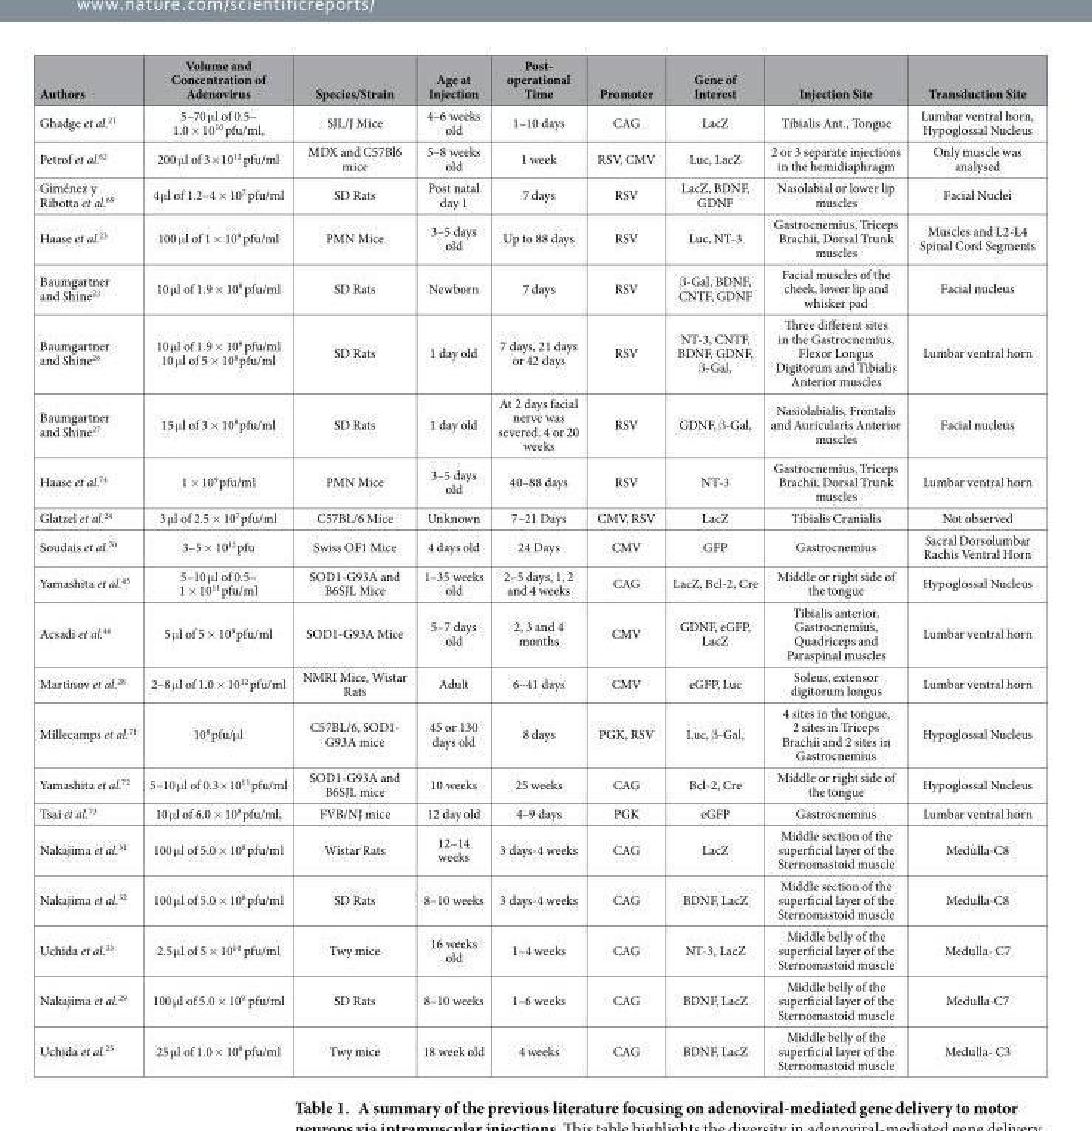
<table><thead><tr><td>Authors</td><td>Volume and Concentration of Adenovirus</td><td>Species/Strain</td><td>Age at Injection</td><td>Post- operational Time</td><td>Promoter</td><td>Gene of Interest</td><td>Injection Site</td><td>Transduction Site</td></tr></thead><tbody><tr><td>Ghadge et al.<sup>21</sup></td><td>5–70 μ l of 0.5– 1.0 × 10<sup>10</sup> pfu/ml,</td><td>SJL/J Mice</td><td>4–6 weeks old</td><td>1–10 days</td><td>CAG</td><td>LacZ</td><td>Tibialis Ant., Tongue</td><td>Lumbar ventral horn, Hypoglossal Nucleus</td></tr><tr><td>Petrof et al.<sup>62</sup></td><td>200 μ l of 3× 10<sup>12</sup> pfu/ml</td><td>MDX and C57Bl6 mice</td><td>5–8 weeks old</td><td>1 week</td><td>RSV, CMV</td><td>Luc, LacZ</td><td>2 or 3 separate injections in the hemidiaphragm</td><td>Only muscle was analysed</td></tr><tr><td>Giménez y Ribotta et al.<sup>69</sup></td><td>4 μ l of 1.2–4 × 10<sup>7</sup> pfu/ml</td><td>SD Rats</td><td>Post natal day 1</td><td>7 days</td><td>RSV</td><td>LacZ, BDNF, GDNF</td><td>Nasolabial or lower lip muscles</td><td>Facial Nuclei</td></tr><tr><td>Haase et al.<sup>23</sup></td><td>100 μ l of 1 × 10<sup>9</sup> pfu/ml</td><td>PMN Mice</td><td>3–5 days old</td><td>Up to 88 days</td><td>RSV</td><td>Luc, NT-3</td><td>Gastrocnemius, Triceps Brachii, Dorsal Trunk muscles</td><td>Muscles and L2-L4 Spinal Cord Segments</td></tr><tr><td>Baumgartner and Shine<sup>22</sup></td><td>10 μ l of 1.9 × 10<sup>8</sup> pfu/ml</td><td>SD Rats</td><td>Newborn</td><td>7 days</td><td>RSV</td><td>β -Gal, BDNF, CNTF, GDNF</td><td>Facial muscles of the cheek, lower lip and whisker pad</td><td>Facial nucleus</td></tr><tr><td>Baumgartner and Shine<sup>26</sup></td><td>10 μ l of 1.9 × 10<sup>8</sup> pfu/ml 10 μ l of 5 × 10<sup>8</sup> pfu/ml</td><td>SD Rats</td><td>1 day old</td><td>7 days, 21 days or 42 days</td><td>RSV</td><td>NT-3, CNTF, BDNF, GDNF, β -Gal,</td><td>Three different sites in the Gastrocnemius, Flexor Longus Digitorum and Tibialis Anterior muscles</td><td>Lumbar ventral horn</td></tr><tr><td>Baumgartner and Shine<sup>27</sup></td><td>15 μ l of 3 × 10<sup>8</sup> pfu/ml</td><td>SD Rats</td><td>1 day old</td><td>At 2 days facial nerve was severed. 4 or 20 weeks</td><td>RSV</td><td>GDNF, β -Gal,</td><td>Nasiolabialis, Frontalis and Auricularis Anterior muscles</td><td>Facial nucleus</td></tr><tr><td>Haase et al.<sup>74</sup></td><td>1 × 10<sup>9</sup> pfu/ml</td><td>PMN Mice</td><td>3–5 days old</td><td>40–88 days</td><td>RSV</td><td>NT-3</td><td>Gastrocnemius, Triceps Brachii, Dorsal Trunk muscles</td><td>Lumbar ventral horn</td></tr><tr><td>Glatzel et al.<sup>24</sup></td><td>3 μ l of 2.5 × 10<sup>7</sup> pfu/ml</td><td>C57BL/6 Mice</td><td>Unknown</td><td>7–21 Days</td><td>CMV, RSV</td><td>LacZ</td><td>Tibialis Cranialis</td><td>Not observed</td></tr><tr><td>Soudais et al.<sup>70</sup></td><td>3–5 × 10<sup>12</sup> pfu</td><td>Swiss OF1 Mice</td><td>4 days old</td><td>24 Days</td><td>CMV</td><td>GFP</td><td>Gastrocnemius</td><td>Sacral Dorsolumbar Rachis Ventral Horn</td></tr><tr><td>Yamashita et al.<sup>45</sup></td><td>5–10 μ l of 0.5– 1 × 10<sup>11</sup> pfu/ml</td><td>SOD1-G93A and B6SJL Mice</td><td>1–35 weeks old</td><td>2–5 days, 1, 2 and 4 weeks</td><td>CAG</td><td>LacZ, Bcl-2, Cre</td><td>Middle or right side of the tongue</td><td>Hypoglossal Nucleus</td></tr><tr><td>Acsadi et al.<sup>46</sup></td><td>5 μ l of 5 × 10<sup>9</sup> pfu/ml</td><td>SOD1-G93A Mice</td><td>5–7 days old</td><td>2, 3 and 4 months</td><td>CMV</td><td>GDNF, eGFP, LacZ</td><td>Tibialis anterior, Gastrocnemius, Quadriceps and Paraspinal muscles</td><td>Lumbar ventral horn</td></tr><tr><td>Martinov et al.<sup>28</sup></td><td>2–8 μ l of 1.0 × 10<sup>12</sup> pfu/ml</td><td>NMRI Mice, Wistar Rats</td><td>Adult</td><td>6–41 days</td><td>CMV</td><td>eGFP, Luc</td><td>Soleus, extensor digitorum longus</td><td>Lumbar ventral horn</td></tr><tr><td>Millecamps et al.<sup>71</sup></td><td>10<sup>8</sup> pfu/μ l</td><td>C57BL/6, SOD1- G93A mice</td><td>45 or 130 days old</td><td>8 days</td><td>PGK, RSV</td><td>Luc, β -Gal,</td><td>4 sites in the tongue, 2 sites in Triceps Brachii and 2 sites in Gastrocnemius</td><td>Hypoglossal Nucleus</td></tr><tr><td>Yamashita et al.<sup>72</sup></td><td>5–10 μ l of 0.3× 10<sup>11</sup> pfu/ml</td><td>SOD1-G93A and B6SJL mice</td><td>10 weeks</td><td>25 weeks</td><td>CAG</td><td>Bcl-2, Cre</td><td>Middle or right side of the tongue</td><td>Hypoglossal Nucleus</td></tr><tr><td>Tsai et al.<sup>73</sup></td><td>10 μ l of 6.0 × 10<sup>8</sup> pfu/ml,</td><td>FVB/NJ mice</td><td>12 day old</td><td>4–9 days</td><td>PGK</td><td>eGFP</td><td>Gastrocnemius</td><td>Lumbar ventral horn</td></tr><tr><td>Nakajima et al.<sup>31</sup></td><td>100 μ l of 5.0 × 10<sup>8</sup> pfu/ml</td><td>Wistar Rats</td><td>12–14 weeks</td><td>3 days-4 weeks</td><td>CAG</td><td>LacZ</td><td>Middle section of the superficial layer of the Sternomastoid muscle</td><td>Medulla-C8</td></tr><tr><td>Nakajima et al.<sup>32</sup></td><td>100 μ l of 5.0 × 10<sup>8</sup> pfu/ml</td><td>SD Rats</td><td>8–10 weeks</td><td>3 days-4 weeks</td><td>CAG</td><td>BDNF, LacZ</td><td>Middle section of the superficial layer of the Sternomastoid muscle</td><td>Medulla-C8</td></tr><tr><td>Uchida et al.<sup>33</sup></td><td>2.5 μ l of 5 × 10<sup>10</sup> pfu/ml</td><td>Twy mice</td><td>16 weeks old</td><td>1–4 weeks</td><td>CAG</td><td>NT-3, LacZ</td><td>Middle belly of the superficial layer of the Sternomastoid muscle</td><td>Medulla- C7</td></tr><tr><td>Nakajima et al.<sup>29</sup></td><td>100 μ l of 5.0 × 10<sup>9</sup> pfu/ml</td><td>SD Rats</td><td>8–10 weeks</td><td>1–6 weeks</td><td>CAG</td><td>BDNF, LacZ</td><td>Middle belly of the superficial layer of the Sternomastoid muscle</td><td>Medulla-C7</td></tr><tr><td>Uchida et al.<sup>25</sup></td><td>25 μ l of 1.0 × 10<sup>8</sup> pfu/ml</td><td>Twy mice</td><td>18 week old</td><td>4 weeks</td><td>CAG</td><td>BDNF, LacZ</td><td>Middle belly of the superficial layer of the Sternomastoid muscle</td><td>Medulla- C3</td></tr></tbody></table>